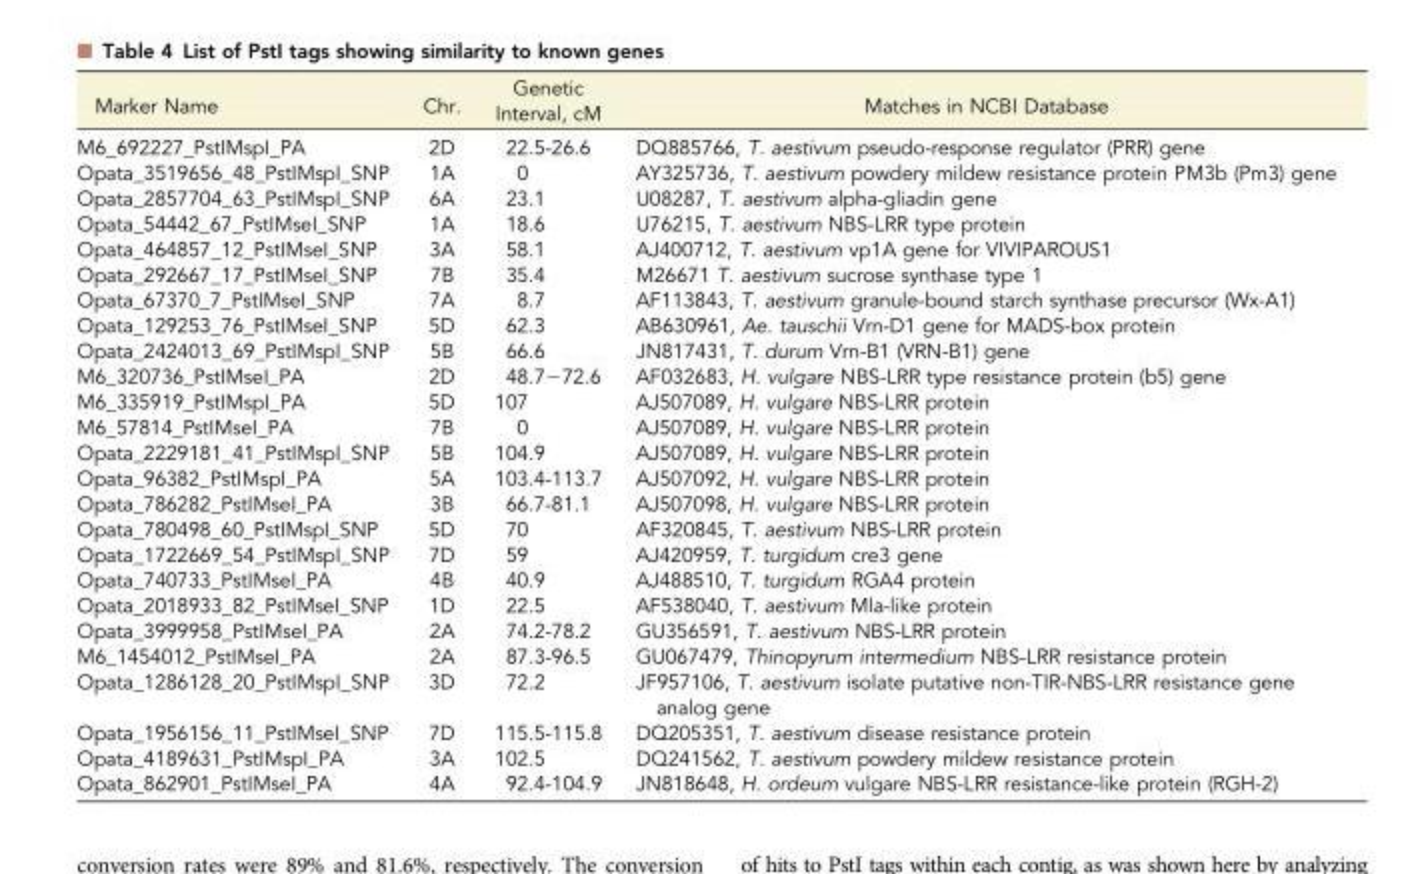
<table><thead><tr><td>Marker Name</td><td>Chr.</td><td>Genetic Interval, cM</td><td>Matches in NCBI Database</td></tr></thead><tbody><tr><td>M6_692227_PstIMspI_PA</td><td>2D</td><td>22.5-26.6</td><td>DQ885766, T. aestivum pseudo-response regulator (PRR) gene</td></tr><tr><td>Opata_3519656_48_PstIMspI_SNP</td><td>1A</td><td>0</td><td>AY325736, T. aestivum powdery mildew resistance protein PM3b (Pm3) gene</td></tr><tr><td>Opata_2857704_63_PstIMspI_SNP</td><td>6A</td><td>23.1</td><td>U08287, T. aestivum alpha-gliadin gene</td></tr><tr><td>Opata_54442_67_PstIMseI_SNP</td><td>1A</td><td>18.6</td><td>U76215, T. aestivum NBS-LRR type protein</td></tr><tr><td>Opata_464857_12_PstIMseI_SNP</td><td>3A</td><td>58.1</td><td>AJ400712, T. aestivum vp1A gene for VIVIPAROUS1</td></tr><tr><td>Opata_292667_17_PstIMseI_SNP</td><td>7B</td><td>35.4</td><td>M26671 T. aestivum sucrose synthase type 1</td></tr><tr><td>Opata_67370_7_PstIMseI_SNP</td><td>7A</td><td>8.7</td><td>AF113843, T. aestivum granule-bound starch synthase precursor (Wx-A1)</td></tr><tr><td>Opata_129253_76_PstIMseI_SNP</td><td>5D</td><td>62.3</td><td>AB630961, Ae. tauschii Vrn-D1 gene for MADS-box protein</td></tr><tr><td>Opata_2424013_69_PstIMspI_SNP</td><td>5B</td><td>66.6</td><td>JN817431, T. durum Vrn-B1 (VRN-B1) gene</td></tr><tr><td>M6_320736_PstIMseI_PA</td><td>2D</td><td>48.7−72.6</td><td>AF032683, H. vulgare NBS-LRR type resistance protein (b5) gene</td></tr><tr><td>M6_335919_PstIMspI_PA</td><td>5D</td><td>107</td><td>AJ507089, H. vulgare NBS-LRR protein</td></tr><tr><td>M6_57814_PstIMseI_PA</td><td>7B</td><td>0</td><td>AJ507089, H. vulgare NBS-LRR protein</td></tr><tr><td>Opata_2229181_41_PstIMspI_SNP</td><td>5B</td><td>104.9</td><td>AJ507089, H. vulgare NBS-LRR protein</td></tr><tr><td>Opata_96382_PstIMspI_PA</td><td>5A</td><td>103.4-113.7</td><td>AJ507092, H. vulgare NBS-LRR protein</td></tr><tr><td>Opata_786282_PstIMseI_PA</td><td>3B</td><td>66.7-81.1</td><td>AJ507098, H. vulgare NBS-LRR protein</td></tr><tr><td>Opata_780498_60_PstIMspI_SNP</td><td>5D</td><td>70</td><td>AF320845, T. aestivum NBS-LRR protein</td></tr><tr><td>Opata_1722669_54_PstIMspI_SNP</td><td>7D</td><td>59</td><td>AJ420959, T. turgidum cre3 gene</td></tr><tr><td>Opata_740733_PstIMseI_PA</td><td>4B</td><td>40.9</td><td>AJ488510, T. turgidum RGA4 protein</td></tr><tr><td>Opata_2018933_82_PstIMseI_SNP</td><td>1D</td><td>22.5</td><td>AF538040, T. aestivum Mla-like protein</td></tr><tr><td>Opata_3999958_PstIMseI_PA</td><td>2A</td><td>74.2-78.2</td><td>GU356591, T. aestivum NBS-LRR protein</td></tr><tr><td>M6_1454012_PstIMseI_PA</td><td>2A</td><td>87.3-96.5</td><td>GU067479, Thinopyrum intermedium NBS-LRR resistance protein</td></tr><tr><td>Opata_1286128_20_PstIMspI_SNP</td><td>3D</td><td>72.2</td><td>JF957106, T. aestivum isolate putative non-TIR-NBS-LRR resistance gene analog gene</td></tr><tr><td>Opata_1956156_11_PstIMseI_SNP</td><td>7D</td><td>115.5-115.8</td><td>DQ205351, T. aestivum disease resistance protein</td></tr><tr><td>Opata_4189631_PstIMspI_PA</td><td>3A</td><td>102.5</td><td>DQ241562, T. aestivum powdery mildew resistance protein</td></tr><tr><td>Opata_862901_PstIMseI_PA</td><td>4A</td><td>92.4-104.9</td><td>JN818648, H. ordeum vulgare NBS-LRR resistance-like protein (RGH-2)</td></tr></tbody></table>